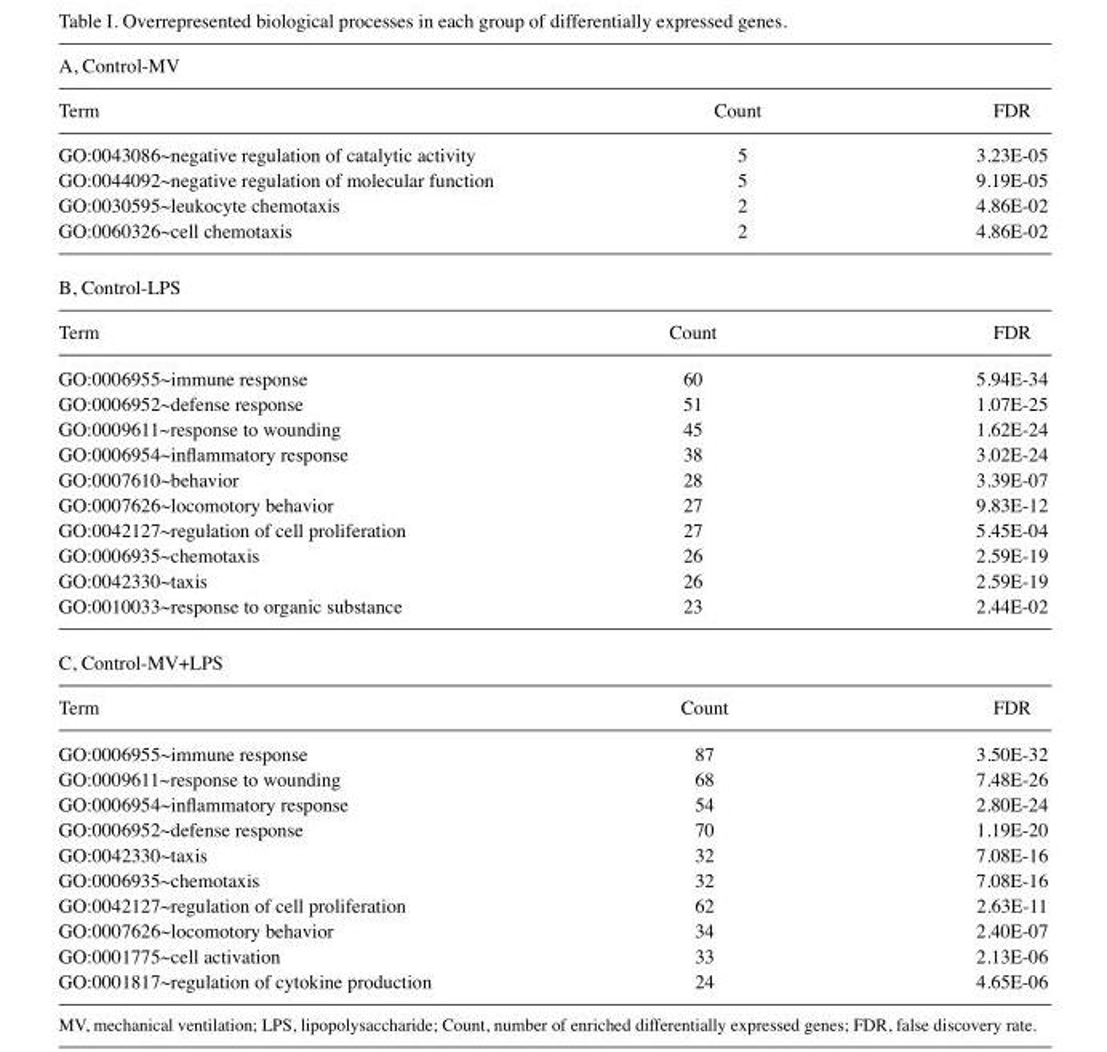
<table><thead><tr><td colspan="3">A, Control‑MV</td></tr><tr><td>Term</td><td>Count</td><td>FDR</td></tr></thead><tbody><tr><td>GO:0043086~negative regulation of catalytic activity</td><td>5</td><td>3.23E‑05</td></tr><tr><td>GO:0044092~negative regulation of molecular function</td><td>5</td><td>9.19E‑05</td></tr><tr><td>GO:0030595~leukocyte chemotaxis</td><td>2</td><td>4.86E‑02</td></tr><tr><td>GO:0060326~cell chemotaxis</td><td>2</td><td>4.86E‑02</td></tr><tr><td colspan="3">B, Control‑LPS</td></tr><tr><td>Term</td><td>Count</td><td>FDR</td></tr><tr><td>GO:0006955~immune response</td><td>60</td><td>5.94E‑34</td></tr><tr><td>GO:0006952~defense response</td><td>51</td><td>1.07E‑25</td></tr><tr><td>GO:0009611~response to wounding</td><td>45</td><td>1.62E‑24</td></tr><tr><td>GO:0006954~inflammatory response</td><td>38</td><td>3.02E‑24</td></tr><tr><td>GO:0007610~behavior</td><td>28</td><td>3.39E‑07</td></tr><tr><td>GO:0007626~locomotory behavior</td><td>27</td><td>9.83E‑12</td></tr><tr><td>GO:0042127~regulation of cell proliferation</td><td>27</td><td>5.45E‑04</td></tr><tr><td>GO:0006935~chemotaxis</td><td>26</td><td>2.59E‑19</td></tr><tr><td>GO:0042330~taxis</td><td>26</td><td>2.59E‑19</td></tr><tr><td>GO:0010033~response to organic substance</td><td>23</td><td>2.44E‑02</td></tr><tr><td colspan="3">C, Control‑MV+LPS</td></tr><tr><td>Term</td><td>Count</td><td>FDR</td></tr><tr><td>GO:0006955~immune response</td><td>87</td><td>3.50E‑32</td></tr><tr><td>GO:0009611~response to wounding</td><td>68</td><td>7.48E‑26</td></tr><tr><td>GO:0006954~inflammatory response</td><td>54</td><td>2.80E‑24</td></tr><tr><td>GO:0006952~defense response</td><td>70</td><td>1.19E‑20</td></tr><tr><td>GO:0042330~taxis</td><td>32</td><td>7.08E‑16</td></tr><tr><td>GO:0006935~chemotaxis</td><td>32</td><td>7.08E‑16</td></tr><tr><td>GO:0042127~regulation of cell proliferation</td><td>62</td><td>2.63E‑11</td></tr><tr><td>GO:0007626~locomotory behavior</td><td>34</td><td>2.40E‑07</td></tr><tr><td>GO:0001775~cell activation</td><td>33</td><td>2.13E‑06</td></tr><tr><td>GO:0001817~regulation of cytokine production</td><td>24</td><td>4.65E‑06</td></tr></tbody></table>